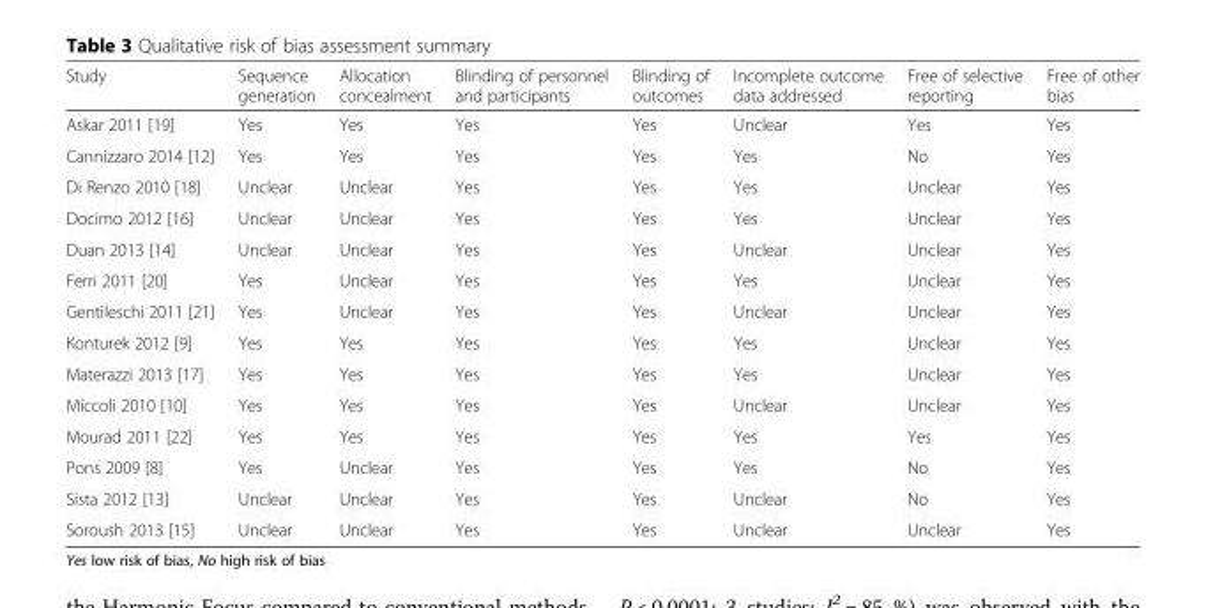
<table><thead><tr><td>Study</td><td>Sequence generation</td><td>Allocation concealment</td><td>Blinding of personnel and participants</td><td>Blinding of outcomes</td><td>Incomplete outcome data addressed</td><td>Free of selective reporting</td><td>Free of other bias</td></tr></thead><tbody><tr><td>Askar 2011 [19]</td><td>Yes</td><td>Yes</td><td>Yes</td><td>Yes</td><td>Unclear</td><td>Yes</td><td>Yes</td></tr><tr><td>Cannizzaro 2014 [12]</td><td>Yes</td><td>Yes</td><td>Yes</td><td>Yes</td><td>Yes</td><td>No</td><td>Yes</td></tr><tr><td>Di Renzo 2010 [18]</td><td>Unclear</td><td>Unclear</td><td>Yes</td><td>Yes</td><td>Yes</td><td>Unclear</td><td>Yes</td></tr><tr><td>Docimo 2012 [16]</td><td>Unclear</td><td>Unclear</td><td>Yes</td><td>Yes</td><td>Yes</td><td>Unclear</td><td>Yes</td></tr><tr><td>Duan 2013 [14]</td><td>Unclear</td><td>Unclear</td><td>Yes</td><td>Yes</td><td>Unclear</td><td>Unclear</td><td>Yes</td></tr><tr><td>Ferri 2011 [20]</td><td>Yes</td><td>Unclear</td><td>Yes</td><td>Yes</td><td>Yes</td><td>Unclear</td><td>Yes</td></tr><tr><td>Gentileschi 2011 [21]</td><td>Yes</td><td>Unclear</td><td>Yes</td><td>Yes</td><td>Unclear</td><td>Unclear</td><td>Yes</td></tr><tr><td>Konturek 2012 [9]</td><td>Yes</td><td>Yes</td><td>Yes</td><td>Yes</td><td>Yes</td><td>Unclear</td><td>Yes</td></tr><tr><td>Materazzi 2013 [17]</td><td>Yes</td><td>Yes</td><td>Yes</td><td>Yes</td><td>Yes</td><td>Unclear</td><td>Yes</td></tr><tr><td>Miccoli 2010 [10]</td><td>Yes</td><td>Yes</td><td>Yes</td><td>Yes</td><td>Unclear</td><td>Unclear</td><td>Yes</td></tr><tr><td>Mourad 2011 [22]</td><td>Yes</td><td>Yes</td><td>Yes</td><td>Yes</td><td>Yes</td><td>Yes</td><td>Yes</td></tr><tr><td>Pons 2009 [8]</td><td>Yes</td><td>Unclear</td><td>Yes</td><td>Yes</td><td>Yes</td><td>No</td><td>Yes</td></tr><tr><td>Sista 2012 [13]</td><td>Unclear</td><td>Unclear</td><td>Yes</td><td>Yes</td><td>Unclear</td><td>No</td><td>Yes</td></tr><tr><td>Soroush 2013 [15]</td><td>Unclear</td><td>Unclear</td><td>Yes</td><td>Yes</td><td>Unclear</td><td>Unclear</td><td>Yes</td></tr></tbody></table>